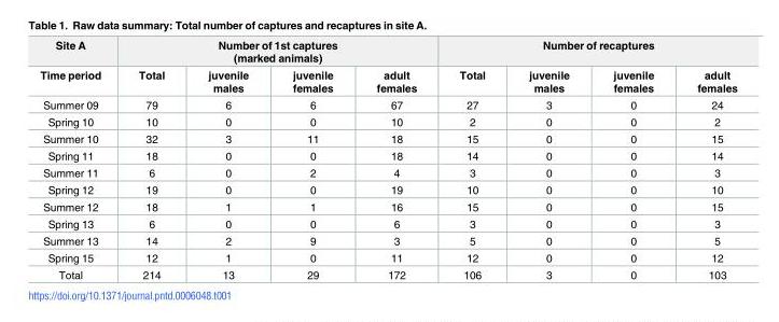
<table><thead><tr><td rowspan="2">Site A Time period</td><td colspan="4">Number of 1st captures (marked animals)</td><td colspan="4">Number of recaptures</td></tr><tr><td>Total</td><td>juvenile males</td><td>juvenile females</td><td>adult females</td><td>Total</td><td>juvenile males</td><td>juvenile females</td><td>adult females</td></tr></thead><tbody><tr><td>Summer 09</td><td>79</td><td>6</td><td>6</td><td>67</td><td>27</td><td>3</td><td>0</td><td>24</td></tr><tr><td>Spring 10</td><td>10</td><td>0</td><td>0</td><td>10</td><td>2</td><td>0</td><td>0</td><td>2</td></tr><tr><td>Summer 10</td><td>32</td><td>3</td><td>11</td><td>18</td><td>15</td><td>0</td><td>0</td><td>15</td></tr><tr><td>Spring 11</td><td>18</td><td>0</td><td>0</td><td>18</td><td>14</td><td>0</td><td>0</td><td>14</td></tr><tr><td>Summer 11</td><td>6</td><td>0</td><td>2</td><td>4</td><td>3</td><td>0</td><td>0</td><td>3</td></tr><tr><td>Spring 12</td><td>19</td><td>0</td><td>0</td><td>19</td><td>10</td><td>0</td><td>0</td><td>10</td></tr><tr><td>Summer 12</td><td>18</td><td>1</td><td>1</td><td>16</td><td>15</td><td>0</td><td>0</td><td>15</td></tr><tr><td>Spring 13</td><td>6</td><td>0</td><td>0</td><td>6</td><td>3</td><td>0</td><td>0</td><td>3</td></tr><tr><td>Summer 13</td><td>14</td><td>2</td><td>9</td><td>3</td><td>5</td><td>0</td><td>0</td><td>5</td></tr><tr><td>Spring 15</td><td>12</td><td>1</td><td>0</td><td>11</td><td>12</td><td>0</td><td>0</td><td>12</td></tr><tr><td>Total</td><td>214</td><td>13</td><td>29</td><td>172</td><td>106</td><td>3</td><td>0</td><td>103</td></tr></tbody></table>